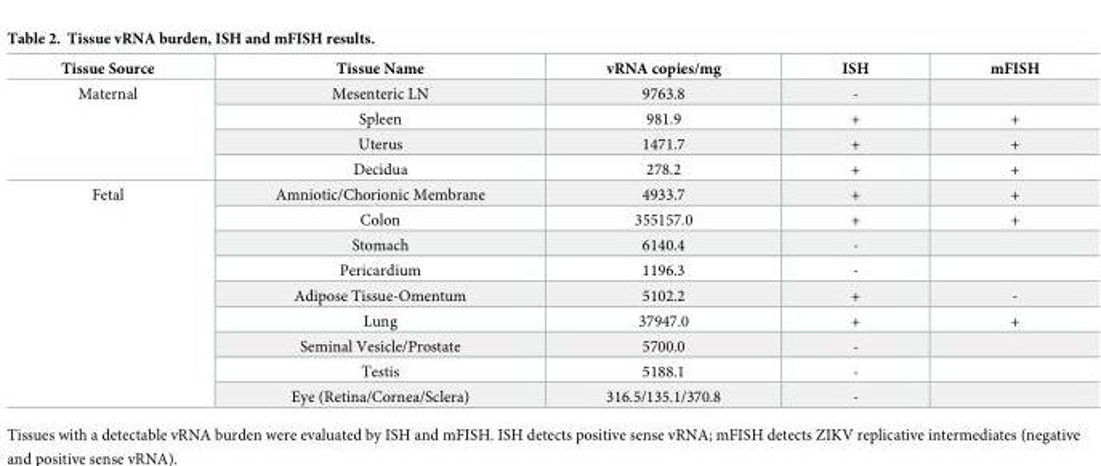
<table><thead><tr><td>Tissue Source</td><td>Tissue Name</td><td>vRNA copies/mg</td><td>ISH</td><td>mFISH</td></tr></thead><tbody><tr><td rowspan="4">Maternal</td><td>Mesenteric LN</td><td>9763.8</td><td>-</td><td></td></tr><tr><td>Spleen</td><td>981.9</td><td>+</td><td>+</td></tr><tr><td>Uterus</td><td>1471.7</td><td>+</td><td>+</td></tr><tr><td>Decidua</td><td>278.2</td><td>+</td><td>+</td></tr><tr><td rowspan="9">Fetal</td><td>Amniotic/Chorionic Membrane</td><td>4933.7</td><td>+</td><td>+</td></tr><tr><td>Colon</td><td>355157.0</td><td>+</td><td>+</td></tr><tr><td>Stomach</td><td>6140.4</td><td>-</td><td></td></tr><tr><td>Pericardium</td><td>1196.3</td><td>-</td><td></td></tr><tr><td>Adipose Tissue-Omentum</td><td>5102.2</td><td>+</td><td>-</td></tr><tr><td>Lung</td><td>37947.0</td><td>+</td><td>+</td></tr><tr><td>Seminal Vesicle/Prostate</td><td>5700.0</td><td>-</td><td></td></tr><tr><td>Testis</td><td>5188.1</td><td>-</td><td></td></tr><tr><td>Eye (Retina/Cornea/Sclera)</td><td>316.5/135.1/370.8</td><td>-</td><td></td></tr></tbody></table>